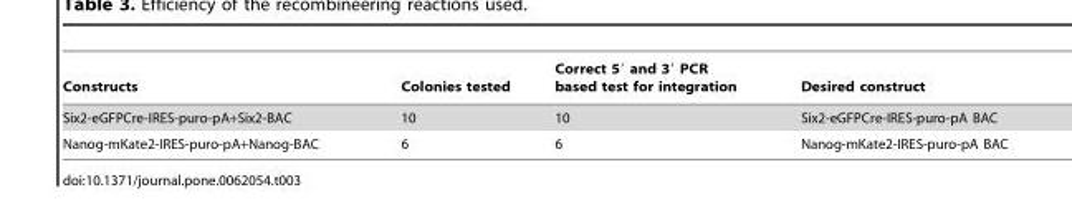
<table><thead><tr><td>Constructs</td><td>Colonies tested</td><td>Correct 5′ and 3′ PCR based test for integration</td><td>Desired construct</td></tr></thead><tbody><tr><td>Six2-eGFPCre-IRES-puro-pA+Six2-BAC</td><td>10</td><td>10</td><td>Six2-eGFPCre-IRES-puro-pA BAC</td></tr><tr><td>Nanog-mKate2-IRES-puro-pA+Nanog-BAC</td><td>6</td><td>6</td><td>Nanog-mKate2-IRES-puro-pA BAC</td></tr></tbody></table>